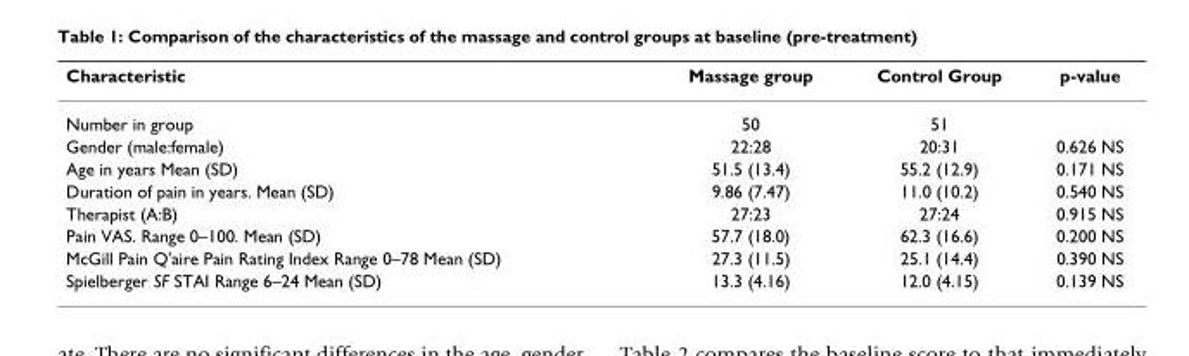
<table><thead><tr><td>Characteristic</td><td>Massage group</td><td>Control Group</td><td>p-value</td></tr></thead><tbody><tr><td>Number in group</td><td>50</td><td>51</td><td></td></tr><tr><td>Gender (male:female)</td><td>22:28</td><td>20:31</td><td>0.626 NS</td></tr><tr><td>Age in years Mean (SD)</td><td>51.5 (13.4)</td><td>55.2 (12.9)</td><td>0.171 NS</td></tr><tr><td>Duration of pain in years. Mean (SD)</td><td>9.86 (7.47)</td><td>11.0 (10.2)</td><td>0.540 NS</td></tr><tr><td>Therapist (A:B)</td><td>27:23</td><td>27:24</td><td>0.915 NS</td></tr><tr><td>Pain VAS. Range 0–100. Mean (SD)</td><td>57.7 (18.0)</td><td>62.3 (16.6)</td><td>0.200 NS</td></tr><tr><td>McGill Pain Q&#x27;aire Pain Rating Index Range 0–78 Mean (SD)</td><td>27.3 (11.5)</td><td>25.1 (14.4)</td><td>0.390 NS</td></tr><tr><td>Spielberger SF STAI Range 6–24 Mean (SD)</td><td>13.3 (4.16)</td><td>12.0 (4.15)</td><td>0.139 NS</td></tr></tbody></table>